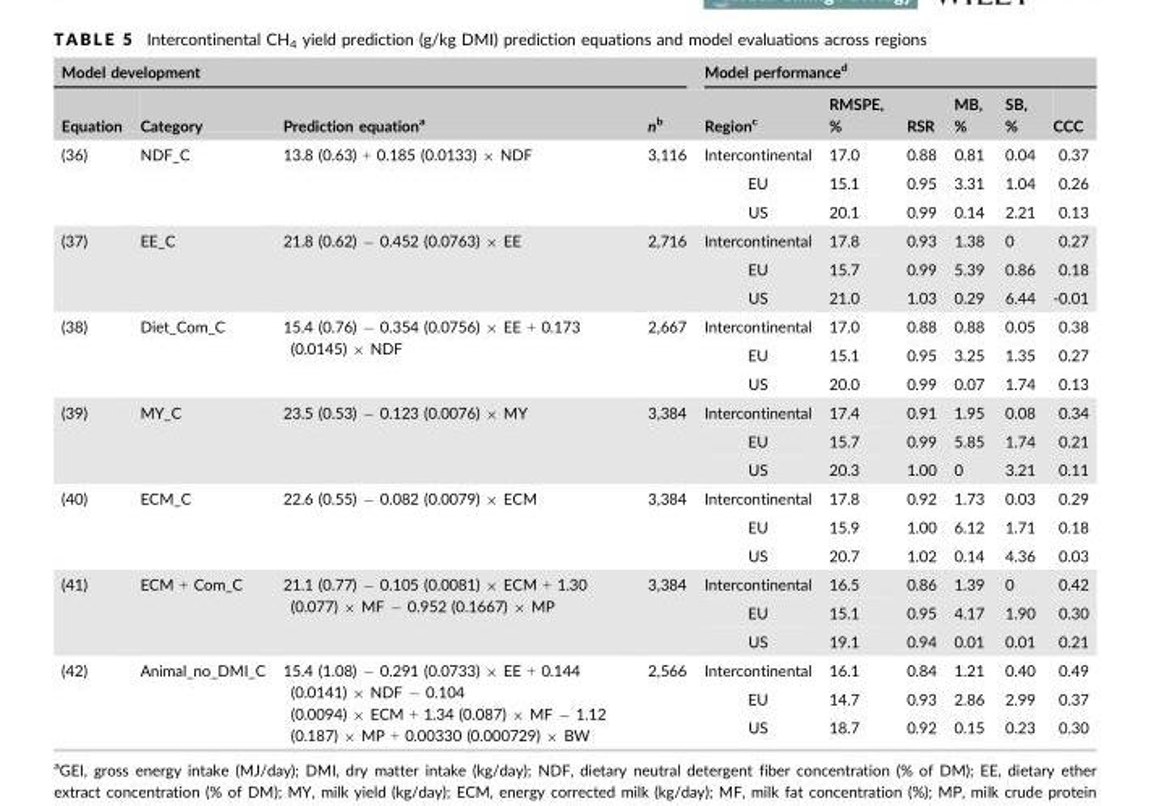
<table><thead><tr><td colspan="4">Model development</td><td colspan="6">Model performance<sup>d</sup></td></tr><tr><td>Equation</td><td>Category</td><td>Prediction equation<sup>a</sup></td><td>nb</td><td>Region<sup>c</sup></td><td>RMSPE, %</td><td>RSR</td><td>MB, %</td><td>SB, %</td><td>CCC</td></tr></thead><tbody><tr><td rowspan="3">(36)</td><td rowspan="3">NDF_C</td><td rowspan="3">13.8 (0.63) + 0.185 (0.0133) × NDF</td><td rowspan="3">3,116</td><td>Intercontinental</td><td>17.0</td><td>0.88</td><td>0.81</td><td>0.04</td><td>0.37</td></tr><tr><td>EU</td><td>15.1</td><td>0.95</td><td>3.31</td><td>1.04</td><td>0.26</td></tr><tr><td>US</td><td>20.1</td><td>0.99</td><td>0.14</td><td>2.21</td><td>0.13</td></tr><tr><td rowspan="3">(37)</td><td rowspan="3">EE_C</td><td rowspan="3">21.8 (0.62) − 0.452 (0.0763) × EE</td><td rowspan="3">2,716</td><td>Intercontinental</td><td>17.8</td><td>0.93</td><td>1.38</td><td>0</td><td>0.27</td></tr><tr><td>EU</td><td>15.7</td><td>0.99</td><td>5.39</td><td>0.86</td><td>0.18</td></tr><tr><td>US</td><td>21.0</td><td>1.03</td><td>0.29</td><td>6.44</td><td>-0.01</td></tr><tr><td rowspan="3">(38)</td><td rowspan="3">Diet_Com_C</td><td rowspan="3">15.4 (0.76) − 0.354 (0.0756) × EE + 0.173 (0.0145) × NDF</td><td rowspan="3">2,667</td><td>Intercontinental</td><td>17.0</td><td>0.88</td><td>0.88</td><td>0.05</td><td>0.38</td></tr><tr><td>EU</td><td>15.1</td><td>0.95</td><td>3.25</td><td>1.35</td><td>0.27</td></tr><tr><td>US</td><td>20.0</td><td>0.99</td><td>0.07</td><td>1.74</td><td>0.13</td></tr><tr><td rowspan="3">(39)</td><td rowspan="3">MY_C</td><td rowspan="3">23.5 (0.53) − 0.123 (0.0076) × MY</td><td rowspan="3">3,384</td><td>Intercontinental</td><td>17.4</td><td>0.91</td><td>1.95</td><td>0.08</td><td>0.34</td></tr><tr><td>EU</td><td>15.7</td><td>0.99</td><td>5.85</td><td>1.74</td><td>0.21</td></tr><tr><td>US</td><td>20.3</td><td>1.00</td><td>0</td><td>3.21</td><td>0.11</td></tr><tr><td rowspan="3">(40)</td><td rowspan="3">ECM_C</td><td rowspan="3">22.6 (0.55) − 0.082 (0.0079) × ECM</td><td rowspan="3">3,384</td><td>Intercontinental</td><td>17.8</td><td>0.92</td><td>1.73</td><td>0.03</td><td>0.29</td></tr><tr><td>EU</td><td>15.9</td><td>1.00</td><td>6.12</td><td>1.71</td><td>0.18</td></tr><tr><td>US</td><td>20.7</td><td>1.02</td><td>0.14</td><td>4.36</td><td>0.03</td></tr><tr><td rowspan="3">(41)</td><td rowspan="3">ECM + Com_C</td><td rowspan="3">21.1 (0.77) − 0.105 (0.0081) × ECM + 1.30 (0.077) × MF − 0.952 (0.1667) × MP</td><td rowspan="3">3,384</td><td>Intercontinental</td><td>16.5</td><td>0.86</td><td>1.39</td><td>0</td><td>0.42</td></tr><tr><td>EU</td><td>15.1</td><td>0.95</td><td>4.17</td><td>1.90</td><td>0.30</td></tr><tr><td>US</td><td>19.1</td><td>0.94</td><td>0.01</td><td>0.01</td><td>0.21</td></tr><tr><td rowspan="3">(42)</td><td rowspan="3">Animal_no_DMI_C</td><td rowspan="3">15.4 (1.08) − 0.291 (0.0733) × EE + 0.144 (0.0141) × NDF − 0.104 (0.0094) × ECM + 1.34 (0.087) × MF − 1.12 (0.187) × MP + 0.00330 (0.000729) × BW</td><td rowspan="3">2,566</td><td>Intercontinental</td><td>16.1</td><td>0.84</td><td>1.21</td><td>0.40</td><td>0.49</td></tr><tr><td>EU</td><td>14.7</td><td>0.93</td><td>2.86</td><td>2.99</td><td>0.37</td></tr><tr><td>US</td><td>18.7</td><td>0.92</td><td>0.15</td><td>0.23</td><td>0.30</td></tr></tbody></table>